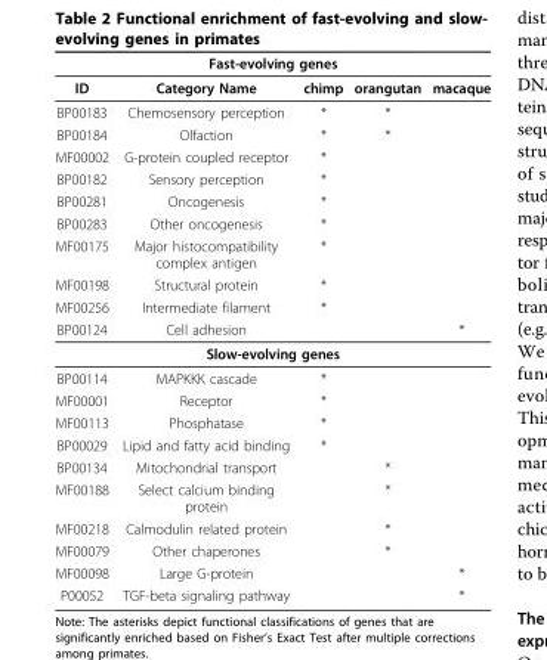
<table><thead><tr><td colspan="5">Fast-evolving genes</td></tr><tr><td>ID</td><td>Category Name</td><td>chimp</td><td>orangutan</td><td>macaque</td></tr></thead><tbody><tr><td>BP00183</td><td>Chemosensory perception</td><td>*</td><td>*</td><td></td></tr><tr><td>BP00184</td><td>Olfaction</td><td>*</td><td>*</td><td></td></tr><tr><td>MF00002</td><td>G-protein coupled receptor</td><td>*</td><td></td><td></td></tr><tr><td>BP00182</td><td>Sensory perception</td><td>*</td><td></td><td></td></tr><tr><td>BP00281</td><td>Oncogenesis</td><td>*</td><td></td><td></td></tr><tr><td>BP00283</td><td>Other oncogenesis</td><td>*</td><td></td><td></td></tr><tr><td>MF00175</td><td>Major histocompatibility complex antigen</td><td>*</td><td></td><td></td></tr><tr><td>MF00198</td><td>Structural protein</td><td>*</td><td></td><td></td></tr><tr><td>MF00256</td><td>Intermediate filament</td><td>*</td><td></td><td></td></tr><tr><td>BP00124</td><td>Cell adhesion</td><td></td><td></td><td>*</td></tr><tr><td colspan="5">Slow-evolving genes</td></tr><tr><td>BP00114</td><td>MAPKKK cascade</td><td>*</td><td></td><td></td></tr><tr><td>MF00001</td><td>Receptor</td><td>*</td><td></td><td></td></tr><tr><td>MF00113</td><td>Phosphatase</td><td>*</td><td></td><td></td></tr><tr><td>BP00029</td><td>Lipid and fatty acid binding</td><td>*</td><td></td><td></td></tr><tr><td>BP00134</td><td>Mitochondrial transport</td><td></td><td>*</td><td></td></tr><tr><td>MF00188</td><td>Select calcium binding protein</td><td></td><td>*</td><td></td></tr><tr><td>MF00218</td><td>Calmodulin related protein</td><td></td><td>*</td><td></td></tr><tr><td>MF00079</td><td>Other chaperones</td><td></td><td>*</td><td></td></tr><tr><td>MF00098</td><td>Large G-protein</td><td></td><td></td><td>*</td></tr><tr><td>P00052</td><td>TGF-beta signaling pathway</td><td></td><td></td><td>*</td></tr></tbody></table>